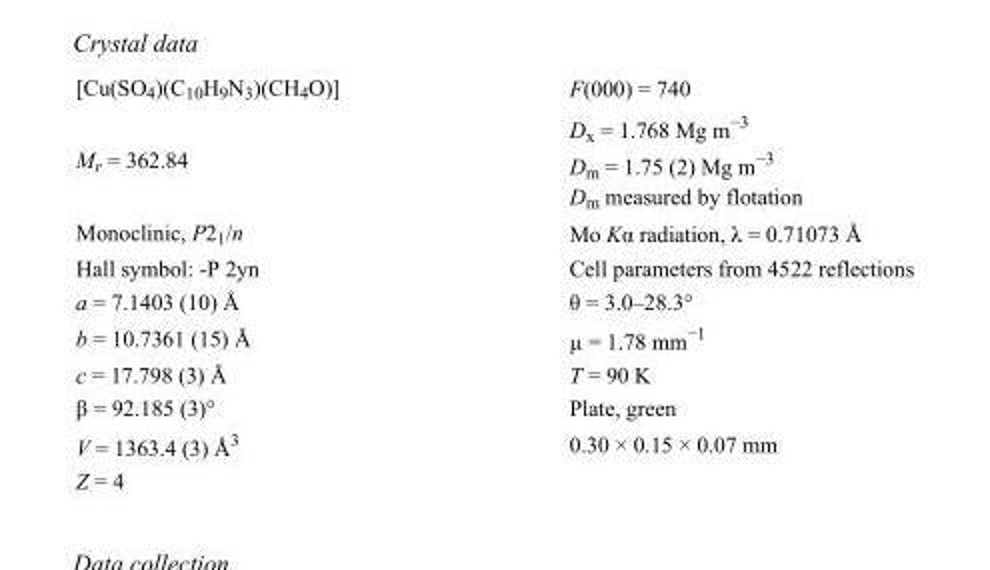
<table><tbody><tr><td>[Cu(SO<sub>4</sub>)(C<sub>10</sub>H<sub>9</sub>N<sub>3</sub>)(CH<sub>4</sub>O)]</td><td>F(000) = 740</td></tr><tr><td>M<sub>r</sub> = 362.84</td><td>D<sub>x</sub> = 1.768 Mg m<sup>−3</sup> D<sub>m</sub> = 1.75 (2) Mg m<sup>−3</sup> D<sub>m</sub> measured by flotation</td></tr><tr><td>Monoclinic, P2<sub>1</sub>/n</td><td>Mo Kα radiation, λ = 0.71073 Å</td></tr><tr><td>Hall symbol: -P 2yn</td><td>Cell parameters from 4522 reflections</td></tr><tr><td>a = 7.1403 (10) Å</td><td>θ = 3.0–28.3°</td></tr><tr><td>b = 10.7361 (15) Å</td><td>µ = 1.78 mm<sup>−1</sup></td></tr><tr><td>c = 17.798 (3) Å</td><td>T = 90 K</td></tr><tr><td>β = 92.185 (3)°</td><td>Plate, green</td></tr><tr><td>V = 1363.4 (3) Å<sup>3</sup></td><td>0.30 × 0.15 × 0.07 mm</td></tr><tr><td>Z = 4</td><td></td></tr></tbody></table>